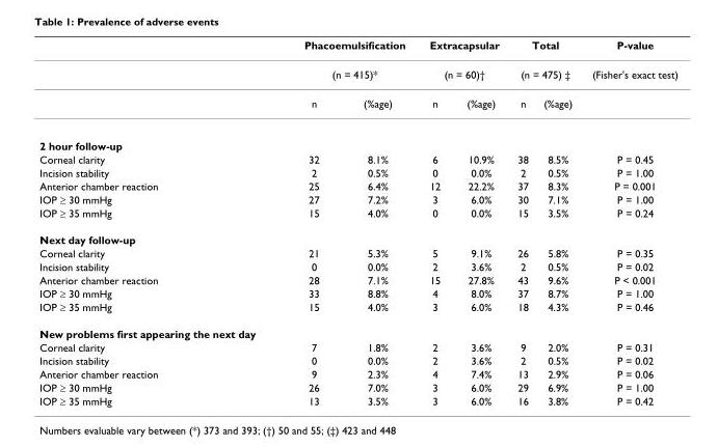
<table><thead><tr><td rowspan="3"></td><td rowspan="2" colspan="2">Phacoemulsification (n = 415)*</td><td rowspan="2" colspan="2">Extracapsular (n = 60)†</td><td rowspan="2" colspan="2">Total (n = 475) ‡</td><td rowspan="3">P-value (Fisher&#x27;s exact test)</td></tr><tr></tr><tr><td>n</td><td>(%age)</td><td>n</td><td>(%age)</td><td>n</td><td>(%age)</td></tr></thead><tbody><tr><td colspan="8">2 hour follow-up</td></tr><tr><td>Corneal clarity</td><td>32</td><td>8.1%</td><td>6</td><td>10.9%</td><td>38</td><td>8.5%</td><td>P = 0.45</td></tr><tr><td>Incision stability</td><td>2</td><td>0.5%</td><td>0</td><td>0.0%</td><td>2</td><td>0.5%</td><td>P = 1.00</td></tr><tr><td>Anterior chamber reaction</td><td>25</td><td>6.4%</td><td>12</td><td>22.2%</td><td>37</td><td>8.3%</td><td>P = 0.001</td></tr><tr><td>IOP ≥ 30 mmHg</td><td>27</td><td>7.2%</td><td>3</td><td>6.0%</td><td>30</td><td>7.1%</td><td>P = 1.00</td></tr><tr><td>IOP ≥ 35 mmHg</td><td>15</td><td>4.0%</td><td>0</td><td>0.0%</td><td>15</td><td>3.5%</td><td>P = 0.24</td></tr><tr><td colspan="8">Next day follow-up</td></tr><tr><td>Corneal clarity</td><td>21</td><td>5.3%</td><td>5</td><td>9.1%</td><td>26</td><td>5.8%</td><td>P = 0.35</td></tr><tr><td>Incision stability</td><td>0</td><td>0.0%</td><td>2</td><td>3.6%</td><td>2</td><td>0.5%</td><td>P = 0.02</td></tr><tr><td>Anterior chamber reaction</td><td>28</td><td>7.1%</td><td>15</td><td>27.8%</td><td>43</td><td>9.6%</td><td>P &lt; 0.001</td></tr><tr><td>IOP ≥ 30 mmHg</td><td>33</td><td>8.8%</td><td>4</td><td>8.0%</td><td>37</td><td>8.7%</td><td>P = 1.00</td></tr><tr><td>IOP ≥ 35 mmHg</td><td>15</td><td>4.0%</td><td>3</td><td>6.0%</td><td>18</td><td>4.3%</td><td>P = 0.46</td></tr><tr><td colspan="8">New problems first appearing the next day</td></tr><tr><td>Corneal clarity</td><td>7</td><td>1.8%</td><td>2</td><td>3.6%</td><td>9</td><td>2.0%</td><td>P = 0.31</td></tr><tr><td>Incision stability</td><td>0</td><td>0.0%</td><td>2</td><td>3.6%</td><td>2</td><td>0.5%</td><td>P = 0.02</td></tr><tr><td>Anterior chamber reaction</td><td>9</td><td>2.3%</td><td>4</td><td>7.4%</td><td>13</td><td>2.9%</td><td>P = 0.06</td></tr><tr><td>IOP ≥ 30 mmHg</td><td>26</td><td>7.0%</td><td>3</td><td>6.0%</td><td>29</td><td>6.9%</td><td>P = 1.00</td></tr><tr><td>IOP ≥ 35 mmHg</td><td>13</td><td>3.5%</td><td>3</td><td>6.0%</td><td>16</td><td>3.8%</td><td>P = 0.42</td></tr></tbody></table>